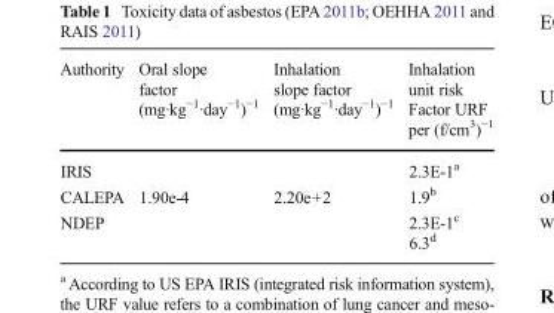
<table><thead><tr><td>Authority</td><td>Oral slope factor (mg·kg<sup>−1</sup>·day<sup>−1</sup>)<sup>−1</sup></td><td>Inhalation slope factor (mg·kg<sup>−1</sup>·day<sup>−1</sup>)<sup>−1</sup></td><td>Inhalation unit risk Factor URF per (f/cm<sup>3</sup>)<sup>−1</sup></td></tr></thead><tbody><tr><td>IRIS</td><td></td><td></td><td>2.3E-1<sup>a</sup></td></tr><tr><td>CALEPA</td><td>1.90e-4</td><td>2.20e+2</td><td>1.9<sup>b</sup></td></tr><tr><td>NDEP</td><td></td><td></td><td>2.3E-1<sup>c</sup> 6.3<sup>d</sup></td></tr></tbody></table>